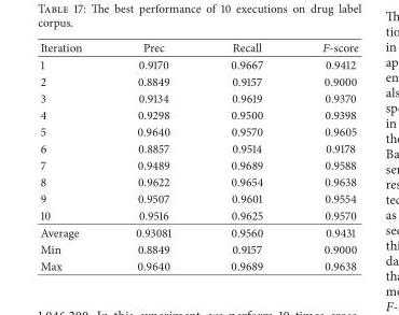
<table><thead><tr><td>Iteration</td><td>Prec</td><td>Recall</td><td>F-score</td></tr></thead><tbody><tr><td>1</td><td>0.9170</td><td>0.9667</td><td>0.9412</td></tr><tr><td>2</td><td>0.8849</td><td>0.9157</td><td>0.9000</td></tr><tr><td>3</td><td>0.9134</td><td>0.9619</td><td>0.9370</td></tr><tr><td>4</td><td>0.9298</td><td>0.9500</td><td>0.9398</td></tr><tr><td>5</td><td>0.9640</td><td>0.9570</td><td>0.9605</td></tr><tr><td>6</td><td>0.8857</td><td>0.9514</td><td>0.9178</td></tr><tr><td>7</td><td>0.9489</td><td>0.9689</td><td>0.9588</td></tr><tr><td>8</td><td>0.9622</td><td>0.9654</td><td>0.9638</td></tr><tr><td>9</td><td>0.9507</td><td>0.9601</td><td>0.9554</td></tr><tr><td>10</td><td>0.9516</td><td>0.9625</td><td>0.9570</td></tr><tr><td>Average</td><td>0.93081</td><td>0.9560</td><td>0.9431</td></tr><tr><td>Min</td><td>0.8849</td><td>0.9157</td><td>0.9000</td></tr><tr><td>Max</td><td>0.9640</td><td>0.9689</td><td>0.9638</td></tr></tbody></table>